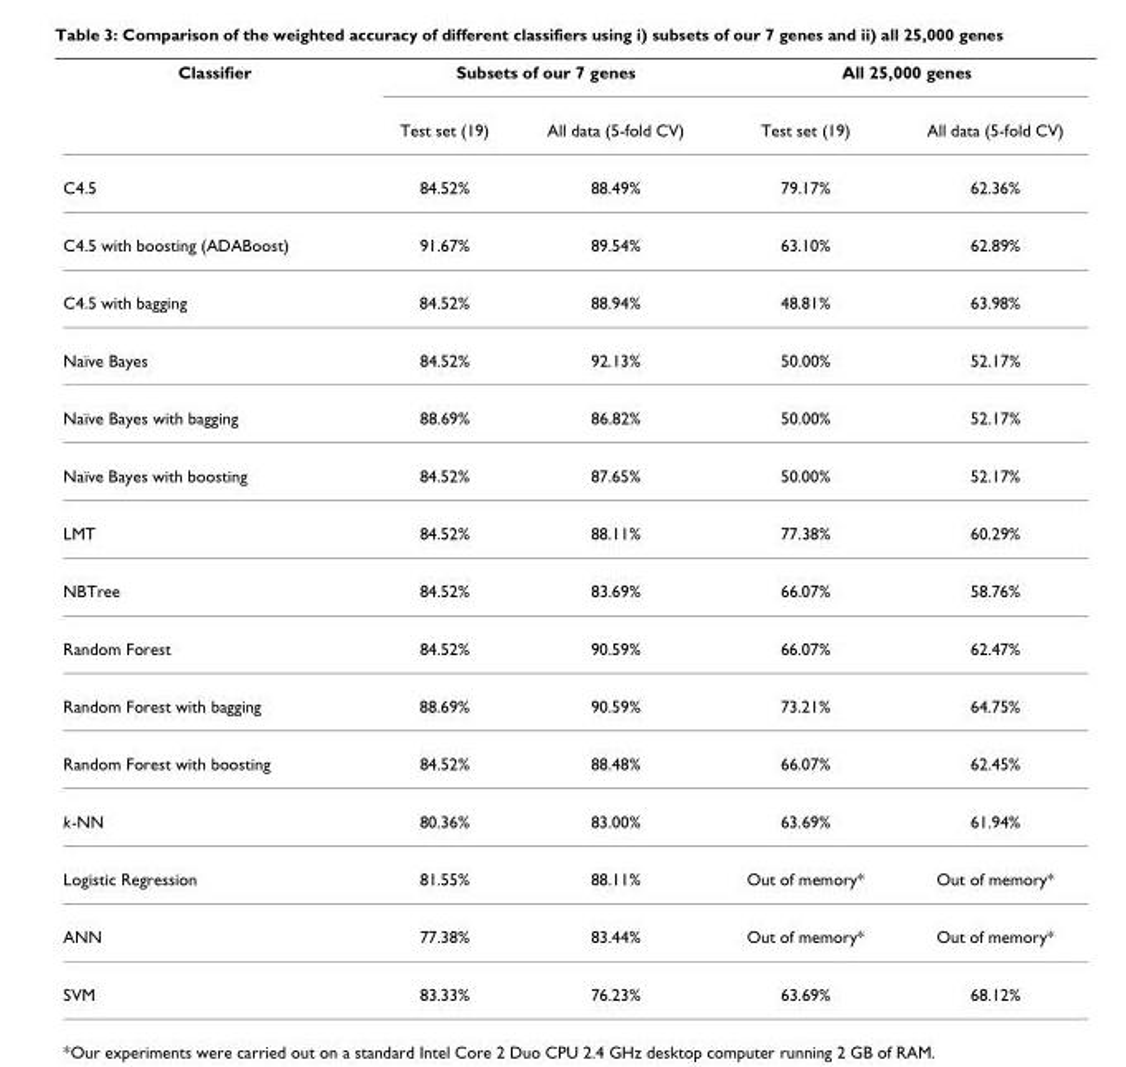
<table><thead><tr><td rowspan="2">Classifier</td><td colspan="2">Subsets of our 7 genes</td><td colspan="2">All 25,000 genes</td></tr><tr><td>Test set (19)</td><td>All data (5-fold CV)</td><td>Test set (19)</td><td>All data (5-fold CV)</td></tr></thead><tbody><tr><td>C4.5</td><td>84.52%</td><td>88.49%</td><td>79.17%</td><td>62.36%</td></tr><tr><td>C4.5 with boosting (ADABoost)</td><td>91.67%</td><td>89.54%</td><td>63.10%</td><td>62.89%</td></tr><tr><td>C4.5 with bagging</td><td>84.52%</td><td>88.94%</td><td>48.81%</td><td>63.98%</td></tr><tr><td>Naïve Bayes</td><td>84.52%</td><td>92.13%</td><td>50.00%</td><td>52.17%</td></tr><tr><td>Naïve Bayes with bagging</td><td>88.69%</td><td>86.82%</td><td>50.00%</td><td>52.17%</td></tr><tr><td>Naïve Bayes with boosting</td><td>84.52%</td><td>87.65%</td><td>50.00%</td><td>52.17%</td></tr><tr><td>LMT</td><td>84.52%</td><td>88.11%</td><td>77.38%</td><td>60.29%</td></tr><tr><td>NBTree</td><td>84.52%</td><td>83.69%</td><td>66.07%</td><td>58.76%</td></tr><tr><td>Random Forest</td><td>84.52%</td><td>90.59%</td><td>66.07%</td><td>62.47%</td></tr><tr><td>Random Forest with bagging</td><td>88.69%</td><td>90.59%</td><td>73.21%</td><td>64.75%</td></tr><tr><td>Random Forest with boosting</td><td>84.52%</td><td>88.48%</td><td>66.07%</td><td>62.45%</td></tr><tr><td>k-NN</td><td>80.36%</td><td>83.00%</td><td>63.69%</td><td>61.94%</td></tr><tr><td>Logistic Regression</td><td>81.55%</td><td>88.11%</td><td>Out of memory*</td><td>Out of memory*</td></tr><tr><td>ANN</td><td>77.38%</td><td>83.44%</td><td>Out of memory*</td><td>Out of memory*</td></tr><tr><td>SVM</td><td>83.33%</td><td>76.23%</td><td>63.69%</td><td>68.12%</td></tr></tbody></table>